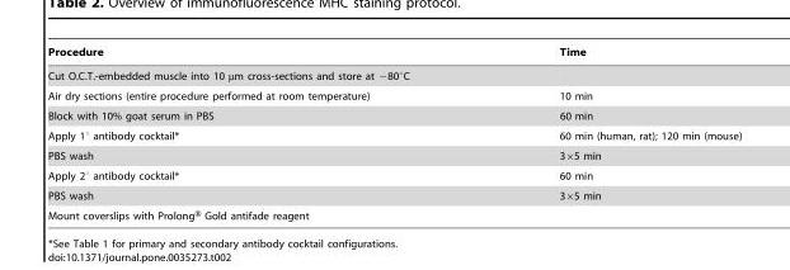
<table><thead><tr><td>Procedure</td><td>Time</td></tr></thead><tbody><tr><td colspan="2">Cut O.C.T.-embedded muscle into 10 µm cross-sections and store at −80°C</td></tr><tr><td>Air dry sections (entire procedure performed at room temperature)</td><td>10 min</td></tr><tr><td>Block with 10% goat serum in PBS</td><td>60 min</td></tr><tr><td>Apply 1° antibody cocktail*</td><td>60 min (human, rat); 120 min (mouse)</td></tr><tr><td>PBS wash</td><td>3×5 min</td></tr><tr><td>Apply 2° antibody cocktail*</td><td>60 min</td></tr><tr><td>PBS wash</td><td>3×5 min</td></tr><tr><td>Mount coverslips with Prolong® Gold antifade reagent</td><td></td></tr></tbody></table>